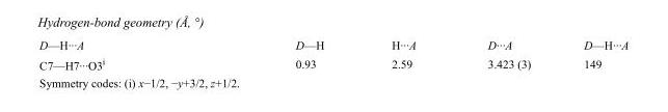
<table><tbody><tr><td>D—H···A</td><td>D—H</td><td>H···A</td><td>D···A</td><td>D—H···A</td></tr><tr><td>C7—H7···O3<sup>i</sup></td><td>0.93</td><td>2.59</td><td>3.423 (3)</td><td>149</td></tr></tbody></table>